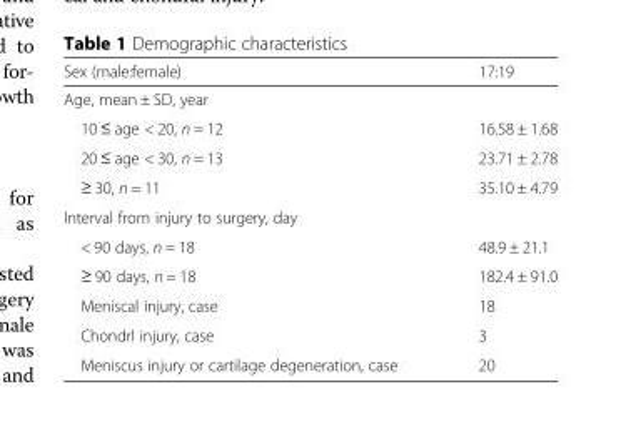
<table><thead><tr><td>Sex (male:female)</td><td>17:19</td></tr></thead><tbody><tr><td colspan="2">Age, mean ± SD, year</td></tr><tr><td>10 ≤ age &lt; 20, n = 12</td><td>16.58 ± 1.68</td></tr><tr><td>20 ≤ age &lt; 30, n = 13</td><td>23.71 ± 2.78</td></tr><tr><td>≥ 30, n = 11</td><td>35.10 ± 4.79</td></tr><tr><td colspan="2">Interval from injury to surgery, day</td></tr><tr><td>&lt; 90 days, n = 18</td><td>48.9 ± 21.1</td></tr><tr><td>≥ 90 days, n = 18</td><td>182.4 ± 91.0</td></tr><tr><td>Meniscal injury, case</td><td>18</td></tr><tr><td>Chondrl injury, case</td><td>3</td></tr><tr><td>Meniscus injury or cartilage degeneration, case</td><td>20</td></tr></tbody></table>